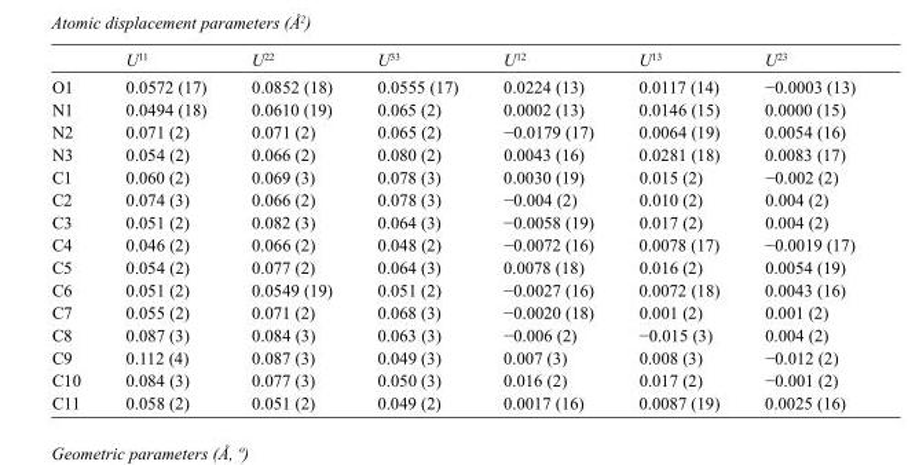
<table><thead><tr><td></td><td>U<sup>11</sup></td><td>U<sup>22</sup></td><td>U<sup>33</sup></td><td>U<sup>12</sup></td><td>U<sup>13</sup></td><td>U<sup>23</sup></td></tr></thead><tbody><tr><td>O1</td><td>0.0572 (17)</td><td>0.0852 (18)</td><td>0.0555 (17)</td><td>0.0224 (13)</td><td>0.0117 (14)</td><td>−0.0003 (13)</td></tr><tr><td>N1</td><td>0.0494 (18)</td><td>0.0610 (19)</td><td>0.065 (2)</td><td>0.0002 (13)</td><td>0.0146 (15)</td><td>0.0000 (15)</td></tr><tr><td>N2</td><td>0.071 (2)</td><td>0.071 (2)</td><td>0.065 (2)</td><td>−0.0179 (17)</td><td>0.0064 (19)</td><td>0.0054 (16)</td></tr><tr><td>N3</td><td>0.054 (2)</td><td>0.066 (2)</td><td>0.080 (2)</td><td>0.0043 (16)</td><td>0.0281 (18)</td><td>0.0083 (17)</td></tr><tr><td>C1</td><td>0.060 (2)</td><td>0.069 (3)</td><td>0.078 (3)</td><td>0.0030 (19)</td><td>0.015 (2)</td><td>−0.002 (2)</td></tr><tr><td>C2</td><td>0.074 (3)</td><td>0.066 (2)</td><td>0.078 (3)</td><td>−0.004 (2)</td><td>0.010 (2)</td><td>0.004 (2)</td></tr><tr><td>C3</td><td>0.051 (2)</td><td>0.082 (3)</td><td>0.064 (3)</td><td>−0.0058 (19)</td><td>0.017 (2)</td><td>0.004 (2)</td></tr><tr><td>C4</td><td>0.046 (2)</td><td>0.066 (2)</td><td>0.048 (2)</td><td>−0.0072 (16)</td><td>0.0078 (17)</td><td>−0.0019 (17)</td></tr><tr><td>C5</td><td>0.054 (2)</td><td>0.077 (2)</td><td>0.064 (3)</td><td>0.0078 (18)</td><td>0.016 (2)</td><td>0.0054 (19)</td></tr><tr><td>C6</td><td>0.051 (2)</td><td>0.0549 (19)</td><td>0.051 (2)</td><td>−0.0027 (16)</td><td>0.0072 (18)</td><td>0.0043 (16)</td></tr><tr><td>C7</td><td>0.055 (2)</td><td>0.071 (2)</td><td>0.068 (3)</td><td>−0.0020 (18)</td><td>0.001 (2)</td><td>0.001 (2)</td></tr><tr><td>C8</td><td>0.087 (3)</td><td>0.084 (3)</td><td>0.063 (3)</td><td>−0.006 (2)</td><td>−0.015 (3)</td><td>0.004 (2)</td></tr><tr><td>C9</td><td>0.112 (4)</td><td>0.087 (3)</td><td>0.049 (3)</td><td>0.007 (3)</td><td>0.008 (3)</td><td>−0.012 (2)</td></tr><tr><td>C10</td><td>0.084 (3)</td><td>0.077 (3)</td><td>0.050 (3)</td><td>0.016 (2)</td><td>0.017 (2)</td><td>−0.001 (2)</td></tr><tr><td>C11</td><td>0.058 (2)</td><td>0.051 (2)</td><td>0.049 (2)</td><td>0.0017 (16)</td><td>0.0087 (19)</td><td>0.0025 (16)</td></tr></tbody></table>